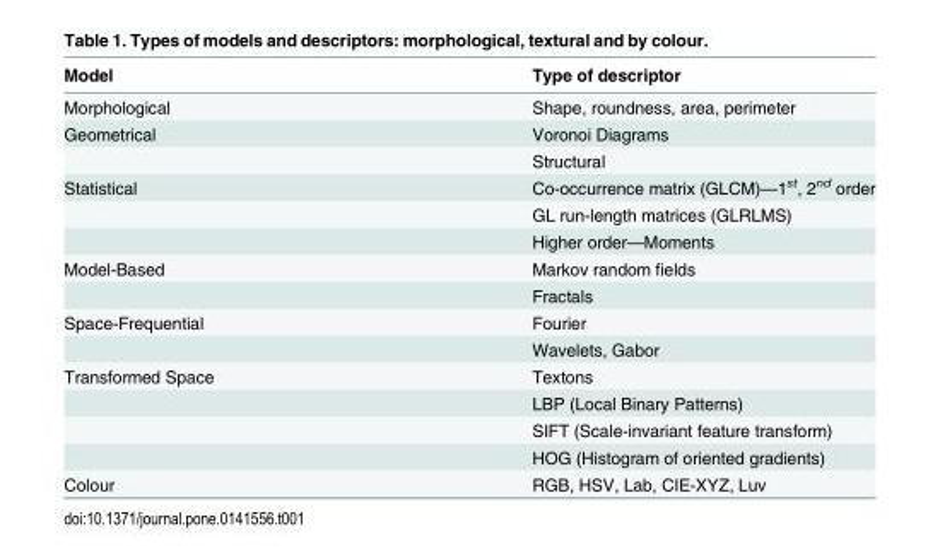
<table><thead><tr><td>Model</td><td>Type of descriptor</td></tr></thead><tbody><tr><td>Morphological</td><td>Shape, roundness, area, perimeter</td></tr><tr><td rowspan="2">Geometrical</td><td>Voronoi Diagrams</td></tr><tr><td>Structural</td></tr><tr><td rowspan="3">Statistical</td><td>Co-occurrence matrix (GLCM)—1<sup>st</sup>, 2<sup>nd</sup> order</td></tr><tr><td>GL run-length matrices (GLRLMS)</td></tr><tr><td>Higher order—Moments</td></tr><tr><td rowspan="2">Model-Based</td><td>Markov random fields</td></tr><tr><td>Fractals</td></tr><tr><td rowspan="2">Space-Frequential</td><td>Fourier</td></tr><tr><td>Wavelets, Gabor</td></tr><tr><td rowspan="4">Transformed Space</td><td>Textons</td></tr><tr><td>LBP (Local Binary Patterns)</td></tr><tr><td>SIFT (Scale-invariant feature transform)</td></tr><tr><td>HOG (Histogram of oriented gradients)</td></tr><tr><td>Colour</td><td>RGB, HSV, Lab, CIE-XYZ, Luv</td></tr></tbody></table>